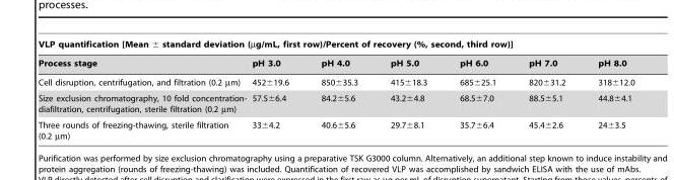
<table><thead><tr><td colspan="7">VLP quantification [Mean ± standard deviation (µg/mL, first row)/Percent of recovery (%, second, third row)]</td></tr><tr><td>Process stage</td><td>pH 3.0</td><td>pH 4.0</td><td>pH 5.0</td><td>pH 6.0</td><td>pH 7.0</td><td>pH 8.0</td></tr></thead><tbody><tr><td>Cell disruption, centrifugation, and filtration (0.2 µm)</td><td>452±19.6</td><td>850±35.3</td><td>415±18.3</td><td>685±25.1</td><td>820±31.2</td><td>318±12.0</td></tr><tr><td>Size exclusion chromatography, 10 fold concentration- diafiltration, centrifugation, sterile filtration (0.2 µm)</td><td>57.5±6.4</td><td>84.2±5.6</td><td>43.2±4.8</td><td>68.5±7.0</td><td>88.5±5.1</td><td>44.8±4.1</td></tr><tr><td>Three rounds of freezing-thawing, sterile filtration (0.2 µm)</td><td>33±4.2</td><td>40.6±5.6</td><td>29.7±8.1</td><td>35.7±6.4</td><td>45.4±2.6</td><td>24±3.5</td></tr></tbody></table>